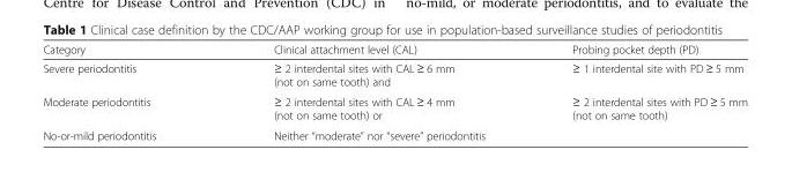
<table><thead><tr><td>Category</td><td>Clinical attachment level (CAL)</td><td>Probing pocket depth (PD)</td></tr></thead><tbody><tr><td>Severe periodontitis</td><td>≥ 2 interdental sites with CAL ≥ 6 mm (not on same tooth) and</td><td>≥ 1 interdental site with PD ≥ 5 mm</td></tr><tr><td>Moderate periodontitis</td><td>≥ 2 interdental sites with CAL ≥ 4 mm (not on same tooth) or</td><td>≥ 2 interdental sites with PD ≥ 5 mm (not on same tooth)</td></tr><tr><td>No-or-mild periodontitis</td><td colspan="2">Neither “moderate” nor “severe” periodontitis</td></tr></tbody></table>